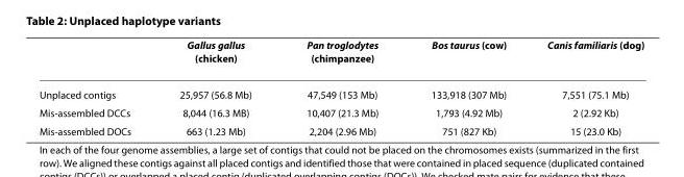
<table><thead><tr><td></td><td>Gallus gallus (chicken)</td><td>Pan troglodytes (chimpanzee)</td><td>Bos taurus (cow)</td><td>Canis familiaris (dog)</td></tr></thead><tbody><tr><td>Unplaced contigs</td><td>25,957 (56.8 Mb)</td><td>47,549 (153 Mb)</td><td>133,918 (307 Mb)</td><td>7,551 (75.1 Mb)</td></tr><tr><td>Mis-assembled DCCs</td><td>8,044 (16.3 MB)</td><td>10,407 (21.3 Mb)</td><td>1,793 (4.92 Mb)</td><td>2 (2.92 Kb)</td></tr><tr><td>Mis-assembled DOCs</td><td>663 (1.23 Mb)</td><td>2,204 (2.96 Mb)</td><td>751 (827 Kb)</td><td>15 (23.0 Kb)</td></tr></tbody></table>